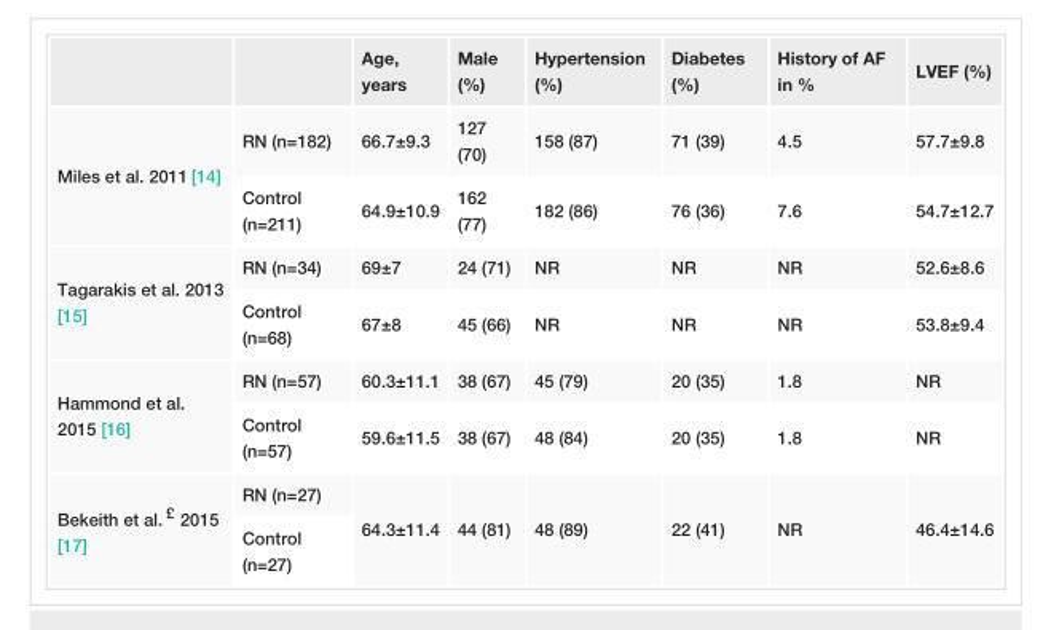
<table><thead><tr><td></td><td></td><td>Age, years</td><td>Male (%)</td><td>Hypertension (%)</td><td>Diabetes (%)</td><td>History of AF in %</td><td>LVEF (%)</td></tr></thead><tbody><tr><td rowspan="2">Miles et al. 2011 [14]</td><td>RN (n=182)</td><td>66.7±9.3</td><td>127 (70)</td><td>158 (87)</td><td>71 (39)</td><td>4.5</td><td>57.7±9.8</td></tr><tr><td>Control (n=211)</td><td>64.9±10.9</td><td>162 (77)</td><td>182 (86)</td><td>76 (36)</td><td>7.6</td><td>54.7±12.7</td></tr><tr><td rowspan="2">Tagarakis et al. 2013 [15]</td><td>RN (n=34)</td><td>69±7</td><td>24 (71)</td><td>NR</td><td>NR</td><td>NR</td><td>52.6±8.6</td></tr><tr><td>Control (n=68)</td><td>67±8</td><td>45 (66)</td><td>NR</td><td>NR</td><td>NR</td><td>53.8±9.4</td></tr><tr><td rowspan="2">Hammond et al. 2015 [16]</td><td>RN (n=57)</td><td>60.3±11.1</td><td>38 (67)</td><td>45 (79)</td><td>20 (35)</td><td>1.8</td><td>NR</td></tr><tr><td>Control (n=57)</td><td>59.6±11.5</td><td>38 (67)</td><td>48 (84)</td><td>20 (35)</td><td>1.8</td><td>NR</td></tr><tr><td rowspan="2">Bekeith et al. <sup>£</sup> 2015 [17]</td><td>RN (n=27)</td><td rowspan="2">64.3±11.4</td><td rowspan="2">44 (81)</td><td rowspan="2">48 (89)</td><td rowspan="2">22 (41)</td><td rowspan="2">NR</td><td rowspan="2">46.4±14.6</td></tr><tr><td>Control (n=27)</td></tr></tbody></table>